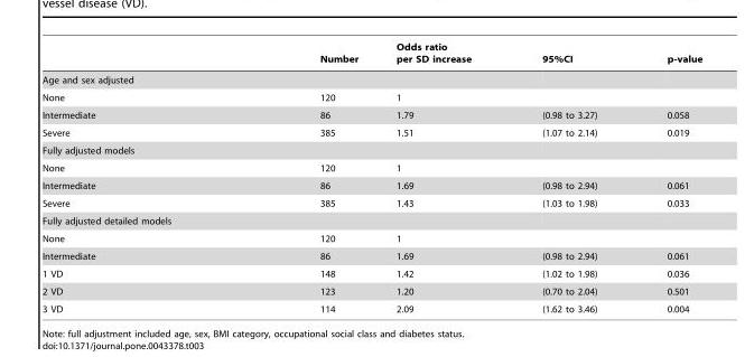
<table><thead><tr><td></td><td>Number</td><td>Odds ratio per SD increase</td><td>95%CI</td><td>p-value</td></tr></thead><tbody><tr><td colspan="5">Age and sex adjusted</td></tr><tr><td>None</td><td>120</td><td>1</td><td></td><td></td></tr><tr><td>Intermediate</td><td>86</td><td>1.79</td><td>(0.98 to 3.27)</td><td>0.058</td></tr><tr><td>Severe</td><td>385</td><td>1.51</td><td>(1.07 to 2.14)</td><td>0.019</td></tr><tr><td colspan="5">Fully adjusted models</td></tr><tr><td>None</td><td>120</td><td>1</td><td></td><td></td></tr><tr><td>Intermediate</td><td>86</td><td>1.69</td><td>(0.98 to 2.94)</td><td>0.061</td></tr><tr><td>Severe</td><td>385</td><td>1.43</td><td>(1.03 to 1.98)</td><td>0.033</td></tr><tr><td colspan="5">Fully adjusted detailed models</td></tr><tr><td>None</td><td>120</td><td>1</td><td></td><td></td></tr><tr><td>Intermediate</td><td>86</td><td>1.69</td><td>(0.98 to 2.94)</td><td>0.061</td></tr><tr><td>1 VD</td><td>148</td><td>1.42</td><td>(1.02 to 1.98)</td><td>0.036</td></tr><tr><td>2 VD</td><td>123</td><td>1.20</td><td>(0.70 to 2.04)</td><td>0.501</td></tr><tr><td>3 VD</td><td>114</td><td>2.09</td><td>(1.62 to 3.46)</td><td>0.004</td></tr></tbody></table>